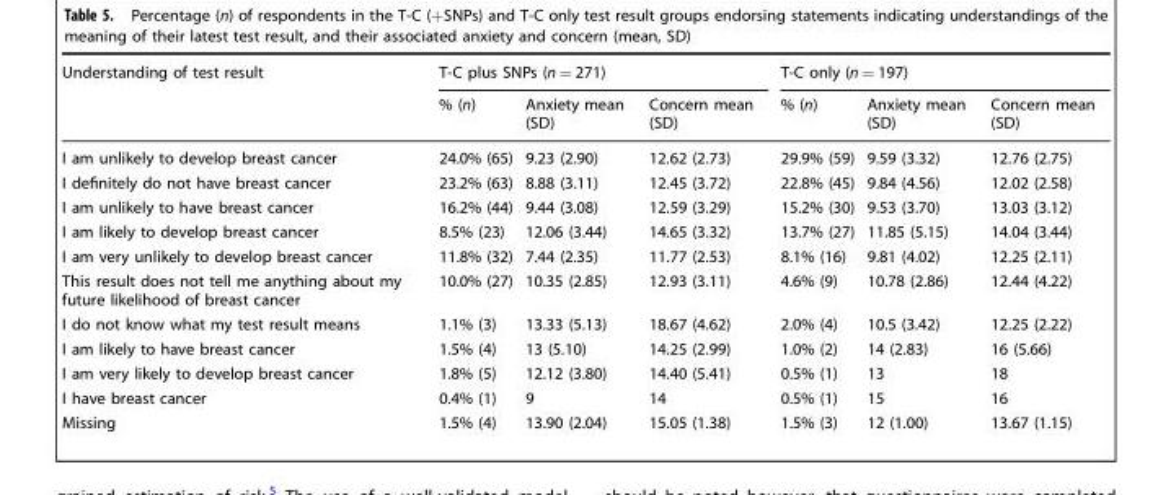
<table><thead><tr><td rowspan="2">Understanding of test result</td><td colspan="3">T-C plus SNPs (n = 271)</td><td colspan="3">T-C only (n = 197)</td></tr><tr><td>% (n)</td><td>Anxiety mean (SD)</td><td>Concern mean (SD)</td><td>% (n)</td><td>Anxiety mean (SD)</td><td>Concern mean (SD)</td></tr></thead><tbody><tr><td>I am unlikely to develop breast cancer</td><td>24.0% (65)</td><td>9.23 (2.90)</td><td>12.62 (2.73)</td><td>29.9% (59)</td><td>9.59 (3.32)</td><td>12.76 (2.75)</td></tr><tr><td>I definitely do not have breast cancer</td><td>23.2% (63)</td><td>8.88 (3.11)</td><td>12.45 (3.72)</td><td>22.8% (45)</td><td>9.84 (4.56)</td><td>12.02 (2.58)</td></tr><tr><td>I am unlikely to have breast cancer</td><td>16.2% (44)</td><td>9.44 (3.08)</td><td>12.59 (3.29)</td><td>15.2% (30)</td><td>9.53 (3.70)</td><td>13.03 (3.12)</td></tr><tr><td>I am likely to develop breast cancer</td><td>8.5% (23)</td><td>12.06 (3.44)</td><td>14.65 (3.32)</td><td>13.7% (27)</td><td>11.85 (5.15)</td><td>14.04 (3.44)</td></tr><tr><td>I am very unlikely to develop breast cancer</td><td>11.8% (32)</td><td>7.44 (2.35)</td><td>11.77 (2.53)</td><td>8.1% (16)</td><td>9.81 (4.02)</td><td>12.25 (2.11)</td></tr><tr><td>This result does not tell me anything about my future likelihood of breast cancer</td><td>10.0% (27)</td><td>10.35 (2.85)</td><td>12.93 (3.11)</td><td>4.6% (9)</td><td>10.78 (2.86)</td><td>12.44 (4.22)</td></tr><tr><td>I do not know what my test result means</td><td>1.1% (3)</td><td>13.33 (5.13)</td><td>18.67 (4.62)</td><td>2.0% (4)</td><td>10.5 (3.42)</td><td>12.25 (2.22)</td></tr><tr><td>I am likely to have breast cancer</td><td>1.5% (4)</td><td>13 (5.10)</td><td>14.25 (2.99)</td><td>1.0% (2)</td><td>14 (2.83)</td><td>16 (5.66)</td></tr><tr><td>I am very likely to develop breast cancer</td><td>1.8% (5)</td><td>12.12 (3.80)</td><td>14.40 (5.41)</td><td>0.5% (1)</td><td>13</td><td>18</td></tr><tr><td>I have breast cancer</td><td>0.4% (1)</td><td>9</td><td>14</td><td>0.5% (1)</td><td>15</td><td>16</td></tr><tr><td>Missing</td><td>1.5% (4)</td><td>13.90 (2.04)</td><td>15.05 (1.38)</td><td>1.5% (3)</td><td>12 (1.00)</td><td>13.67 (1.15)</td></tr></tbody></table>